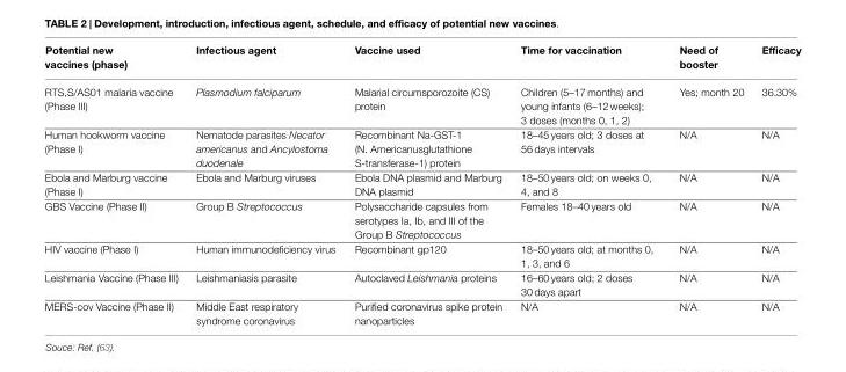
<table><thead><tr><td>Potential new vaccines (phase)</td><td>Infectious agent</td><td>Vaccine used</td><td>Time for vaccination</td><td>Need of booster</td><td>Efficacy</td></tr></thead><tbody><tr><td>RTS,S/AS01 malaria vaccine (Phase III)</td><td>Plasmodium falciparum</td><td>Malarial circumsporozoite (CS) protein</td><td>Children (5–17 months) and young infants (6–12 weeks); 3 doses (months 0, 1, 2)</td><td>Yes; month 20</td><td>36.30%</td></tr><tr><td>Human hookworm vaccine (Phase I)</td><td>Nematode parasites Necator americanus and Ancylostoma duodenale</td><td>Recombinant Na-GST-1 (N. Americanusglutathione S-transferase-1) protein</td><td>18–45 years old; 3 doses at 56 days intervals</td><td>N/A</td><td>N/A</td></tr><tr><td>Ebola and Marburg vaccine (Phase I)</td><td>Ebola and Marburg viruses</td><td>Ebola DNA plasmid and Marburg DNA plasmid</td><td>18–50 years old; on weeks 0, 4, and 8</td><td>N/A</td><td>N/A</td></tr><tr><td>GBS Vaccine (Phase II)</td><td>Group B Streptococcus</td><td>Polysaccharide capsules from serotypes Ia, Ib, and III of the Group B Streptococcus</td><td>Females 18–40 years old</td><td>N/A</td><td>N/A</td></tr><tr><td>HIV vaccine (Phase I)</td><td>Human immunodeficiency virus</td><td>Recombinant gp120</td><td>18–50 years old; at months 0, 1, 3, and 6</td><td>N/A</td><td>N/A</td></tr><tr><td>Leishmania Vaccine (Phase III)</td><td>Leishmaniasis parasite</td><td>Autoclaved Leishmania proteins</td><td>16–60 years old; 2 doses 30 days apart</td><td>N/A</td><td>N/A</td></tr><tr><td>MERS-cov Vaccine (Phase II)</td><td>Middle East respiratory syndrome coronavirus</td><td>Purified coronavirus spike protein nanoparticles</td><td>N/A</td><td>N/A</td><td>N/A</td></tr></tbody></table>